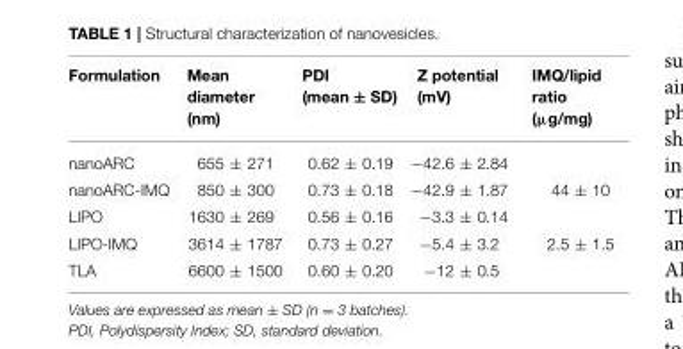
<table><thead><tr><td>Formulation</td><td>Mean diameter (nm)</td><td>PDI (mean ± SD)</td><td>Z potential (mV)</td><td>IMQ/lipid ratio (µg/mg)</td></tr></thead><tbody><tr><td>nanoARC</td><td>655 ± 271</td><td>0.62 ± 0.19</td><td>−42.6 ± 2.84</td><td></td></tr><tr><td>nanoARC-IMQ</td><td>850 ± 300</td><td>0.73 ± 0.18</td><td>−42.9 ± 1.87</td><td>44 ± 10</td></tr><tr><td>LIPO</td><td>1630 ± 269</td><td>0.56 ± 0.16</td><td>−3.3 ± 0.14</td><td></td></tr><tr><td>LIPO-IMQ</td><td>3614 ± 1787</td><td>0.73 ± 0.27</td><td>−5.4 ± 3.2</td><td>2.5 ± 1.5</td></tr><tr><td>TLA</td><td>6600 ± 1500</td><td>0.60 ± 0.20</td><td>−12 ± 0.5</td><td></td></tr></tbody></table>